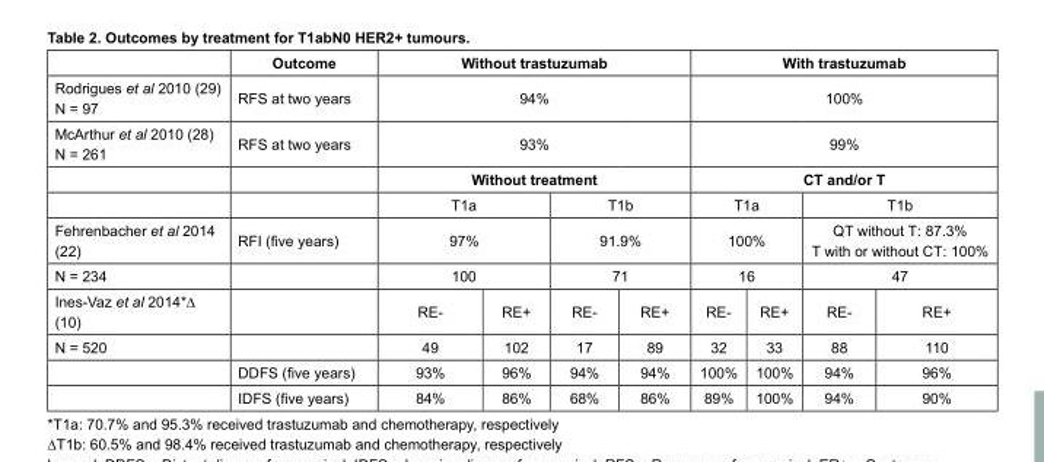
<table><thead><tr><td></td><td>Outcome</td><td colspan="4">Without trastuzumab</td><td colspan="4">With trastuzumab</td></tr></thead><tbody><tr><td>Rodrigues et al 2010 (29) N = 97</td><td>RFS at two years</td><td colspan="4">94%</td><td colspan="4">100%</td></tr><tr><td rowspan="3">McArthur et al 2010 (28) N = 261</td><td>RFS at two years</td><td colspan="4">93%</td><td colspan="4">99%</td></tr><tr><td></td><td colspan="4">Without treatment</td><td colspan="4">CT and/or T</td></tr><tr><td></td><td colspan="2">T1a</td><td colspan="2">T1b</td><td colspan="2">T1a</td><td colspan="2">T1b</td></tr><tr><td>Fehrenbacher et al 2014 (22)</td><td>RFI (five years)</td><td colspan="2">97%</td><td colspan="2">91.9%</td><td colspan="2">100%</td><td colspan="2">QT without T : 87.3% T with or without CT : 100%</td></tr><tr><td>N = 234</td><td></td><td colspan="2">100</td><td colspan="2">71</td><td colspan="2">16</td><td colspan="2">47</td></tr><tr><td>Ines-Vaz et al 2014*∆ (10)</td><td></td><td>RE-</td><td>RE+</td><td>RE-</td><td>RE+</td><td>RE-</td><td>RE+</td><td>RE-</td><td>RE+</td></tr><tr><td rowspan="3">N = 520</td><td></td><td>49</td><td>102</td><td>17</td><td>89</td><td>32</td><td>33</td><td>88</td><td>110</td></tr><tr><td>DDFS (five years)</td><td>93%</td><td>96%</td><td>94%</td><td>94%</td><td>100%</td><td>100%</td><td>94%</td><td>96%</td></tr><tr><td>IDFS (five years)</td><td>84%</td><td>86%</td><td>68%</td><td>86%</td><td>89%</td><td>100%</td><td>94%</td><td>90%</td></tr></tbody></table>